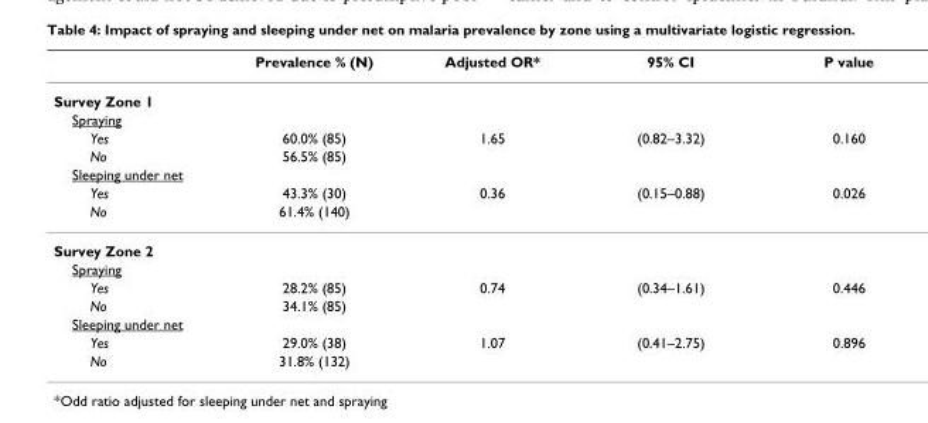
<table><thead><tr><td></td><td>Prevalence % (N)</td><td>Adjusted OR*</td><td>95% CI</td><td>P value</td></tr></thead><tbody><tr><td colspan="5">Survey Zone 1</td></tr><tr><td colspan="5">Spraying</td></tr><tr><td>Yes</td><td>60.0% (85)</td><td>1.65</td><td>(0.82–3.32)</td><td>0.160</td></tr><tr><td>No</td><td>56.5% (85)</td><td></td><td></td><td></td></tr><tr><td colspan="5">Sleeping under net</td></tr><tr><td>Yes</td><td>43.3% (30)</td><td>0.36</td><td>(0.15–0.88)</td><td>0.026</td></tr><tr><td>No</td><td>61.4% (140)</td><td></td><td></td><td></td></tr><tr><td colspan="5">Survey Zone 2</td></tr><tr><td colspan="5">Spraying</td></tr><tr><td>Yes</td><td>28.2% (85)</td><td>0.74</td><td>(0.34–1.61)</td><td>0.446</td></tr><tr><td>No</td><td>34.1% (85)</td><td></td><td></td><td></td></tr><tr><td colspan="5">Sleeping under net</td></tr><tr><td>Yes</td><td>29.0% (38)</td><td>1.07</td><td>(0.41–2.75)</td><td>0.896</td></tr><tr><td>No</td><td>31.8% (132)</td><td></td><td></td><td></td></tr></tbody></table>